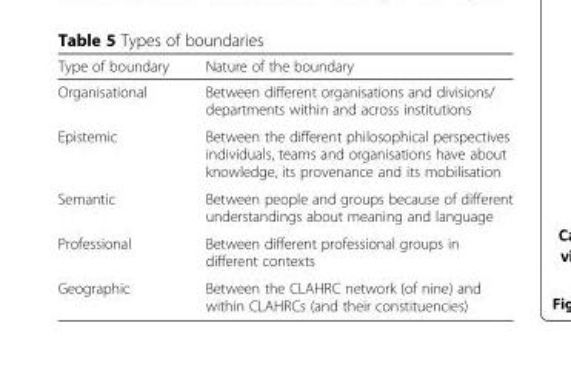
<table><thead><tr><td>Type of boundary</td><td>Nature of the boundary</td></tr></thead><tbody><tr><td>Organisational</td><td>Between different organisations and divisions/ departments within and across institutions</td></tr><tr><td>Epistemic</td><td>Between the different philosophical perspectives individuals, teams and organisations have about knowledge, its provenance and its mobilisation</td></tr><tr><td>Semantic</td><td>Between people and groups because of different understandings about meaning and language</td></tr><tr><td>Professional</td><td>Between different professional groups in different contexts</td></tr><tr><td>Geographic</td><td>Between the CLAHRC network (of nine) and within CLAHRCs (and their constituencies)</td></tr></tbody></table>